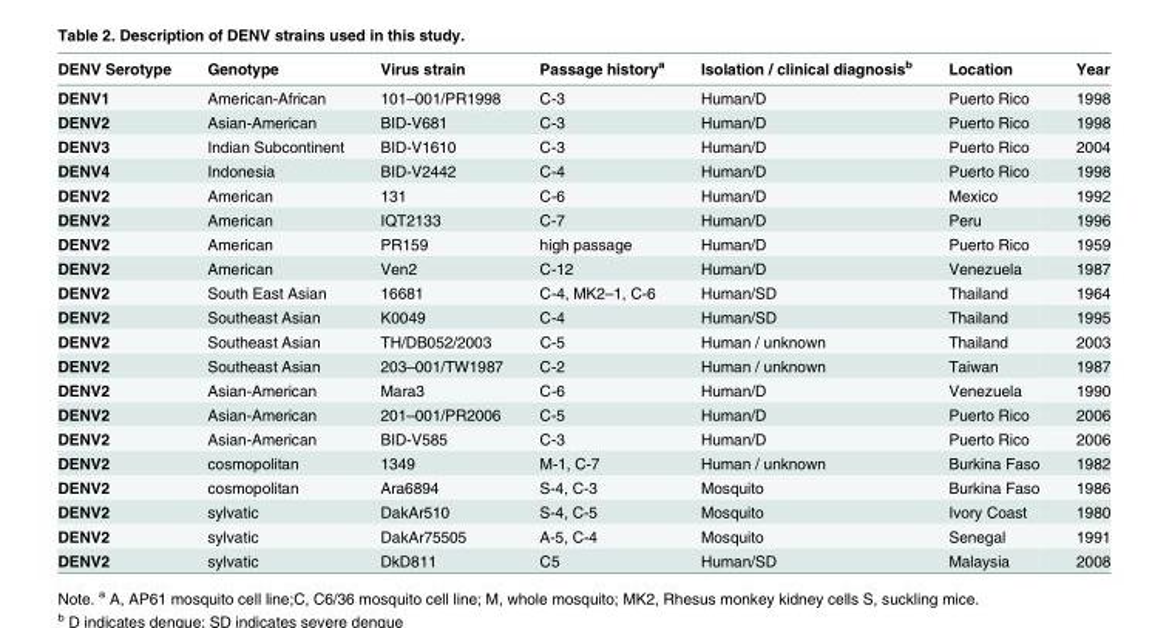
<table><thead><tr><td>DENV Serotype</td><td>Genotype</td><td>Virus strain</td><td>Passage history<sup>a</sup></td><td>Isolation / clinical diagnosis<sup>b</sup></td><td>Location</td><td>Year</td></tr></thead><tbody><tr><td>DENV1</td><td>American-African</td><td>101–001/PR1998</td><td>C-3</td><td>Human/D</td><td>Puerto Rico</td><td>1998</td></tr><tr><td>DENV2</td><td>Asian-American</td><td>BID-V681</td><td>C-3</td><td>Human/D</td><td>Puerto Rico</td><td>1998</td></tr><tr><td>DENV3</td><td>Indian Subcontinent</td><td>BID-V1610</td><td>C-3</td><td>Human/D</td><td>Puerto Rico</td><td>2004</td></tr><tr><td>DENV4</td><td>Indonesia</td><td>BID-V2442</td><td>C-4</td><td>Human/D</td><td>Puerto Rico</td><td>1998</td></tr><tr><td>DENV2</td><td>American</td><td>131</td><td>C-6</td><td>Human/D</td><td>Mexico</td><td>1992</td></tr><tr><td>DENV2</td><td>American</td><td>IQT2133</td><td>C-7</td><td>Human/D</td><td>Peru</td><td>1996</td></tr><tr><td>DENV2</td><td>American</td><td>PR159</td><td>high passage</td><td>Human/D</td><td>Puerto Rico</td><td>1959</td></tr><tr><td>DENV2</td><td>American</td><td>Ven2</td><td>C-12</td><td>Human/D</td><td>Venezuela</td><td>1987</td></tr><tr><td>DENV2</td><td>South East Asian</td><td>16681</td><td>C-4, MK2–1, C-6</td><td>Human/SD</td><td>Thailand</td><td>1964</td></tr><tr><td>DENV2</td><td>Southeast Asian</td><td>K0049</td><td>C-4</td><td>Human/SD</td><td>Thailand</td><td>1995</td></tr><tr><td>DENV2</td><td>Southeast Asian</td><td>TH/DB052/2003</td><td>C-5</td><td>Human / unknown</td><td>Thailand</td><td>2003</td></tr><tr><td>DENV2</td><td>Southeast Asian</td><td>203–001/TW1987</td><td>C-2</td><td>Human / unknown</td><td>Taiwan</td><td>1987</td></tr><tr><td>DENV2</td><td>Asian-American</td><td>Mara3</td><td>C-6</td><td>Human/D</td><td>Venezuela</td><td>1990</td></tr><tr><td>DENV2</td><td>Asian-American</td><td>201–001/PR2006</td><td>C-5</td><td>Human/D</td><td>Puerto Rico</td><td>2006</td></tr><tr><td>DENV2</td><td>Asian-American</td><td>BID-V585</td><td>C-3</td><td>Human/D</td><td>Puerto Rico</td><td>2006</td></tr><tr><td>DENV2</td><td>cosmopolitan</td><td>1349</td><td>M-1, C-7</td><td>Human / unknown</td><td>Burkina Faso</td><td>1982</td></tr><tr><td>DENV2</td><td>cosmopolitan</td><td>Ara6894</td><td>S-4, C-3</td><td>Mosquito</td><td>Burkina Faso</td><td>1986</td></tr><tr><td>DENV2</td><td>sylvatic</td><td>DakAr510</td><td>S-4, C-5</td><td>Mosquito</td><td>Ivory Coast</td><td>1980</td></tr><tr><td>DENV2</td><td>sylvatic</td><td>DakAr75505</td><td>A-5, C-4</td><td>Mosquito</td><td>Senegal</td><td>1991</td></tr><tr><td>DENV2</td><td>sylvatic</td><td>DkD811</td><td>C5</td><td>Human/SD</td><td>Malaysia</td><td>2008</td></tr></tbody></table>